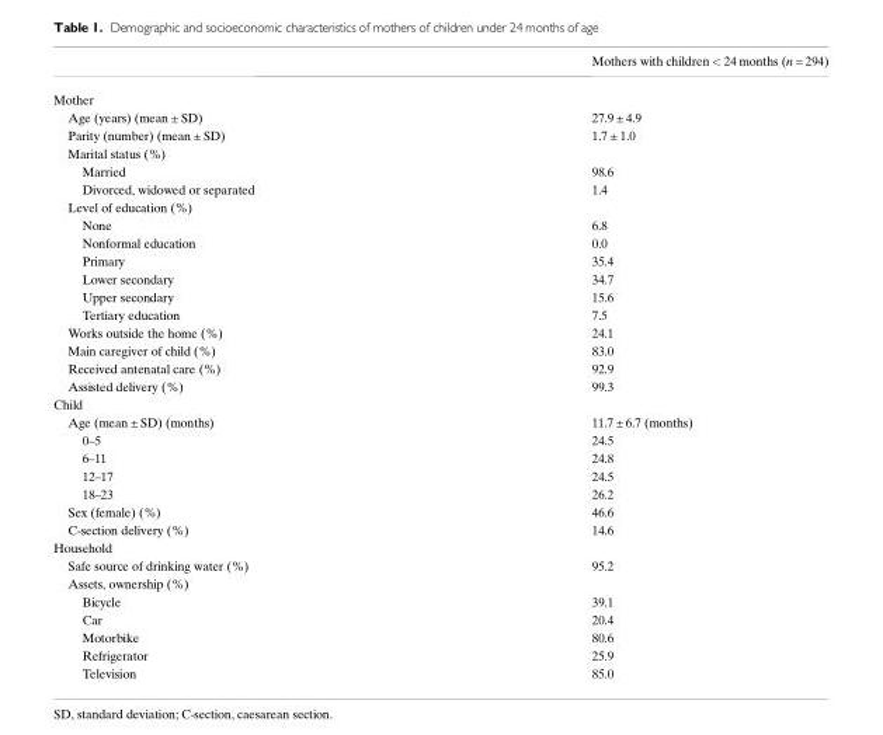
<table><thead><tr><td></td><td>Mothers with children &lt; 24 months (n = 294)</td></tr></thead><tbody><tr><td colspan="2">Mother</td></tr><tr><td>Age (years) (mean ± SD)</td><td>27.9 ± 4.9</td></tr><tr><td>Parity (number) (mean ± SD)</td><td>1.7 ± 1.0</td></tr><tr><td colspan="2">Marital status (%)</td></tr><tr><td>Married</td><td>98.6</td></tr><tr><td>Divorced, widowed or separated</td><td>1.4</td></tr><tr><td colspan="2">Level of education (%)</td></tr><tr><td>None</td><td>6.8</td></tr><tr><td>Nonformal education</td><td>0.0</td></tr><tr><td>Primary</td><td>35.4</td></tr><tr><td>Lower secondary</td><td>34.7</td></tr><tr><td>Upper secondary</td><td>15.6</td></tr><tr><td>Tertiary education</td><td>7.5</td></tr><tr><td>Works outside the home (%)</td><td>24.1</td></tr><tr><td>Main caregiver of child (%)</td><td>83.0</td></tr><tr><td>Received antenatal care (%)</td><td>92.9</td></tr><tr><td>Assisted delivery (%)</td><td>99.3</td></tr><tr><td colspan="2">Child</td></tr><tr><td>Age (mean ± SD) (months)</td><td>11.7 ± 6.7 (months)</td></tr><tr><td>0–5</td><td>24.5</td></tr><tr><td>6–11</td><td>24.8</td></tr><tr><td>12–17</td><td>24.5</td></tr><tr><td>18–23</td><td>26.2</td></tr><tr><td>Sex (female) (%)</td><td>46.6</td></tr><tr><td>C-section delivery (%)</td><td>14.6</td></tr><tr><td colspan="2">Household</td></tr><tr><td>Safe source of drinking water (%)</td><td>95.2</td></tr><tr><td colspan="2">Assets, ownership (%)</td></tr><tr><td>Bicycle</td><td>39.1</td></tr><tr><td>Car</td><td>20.4</td></tr><tr><td>Motorbike</td><td>80.6</td></tr><tr><td>Refrigerator</td><td>25.9</td></tr><tr><td>Television</td><td>85.0</td></tr></tbody></table>